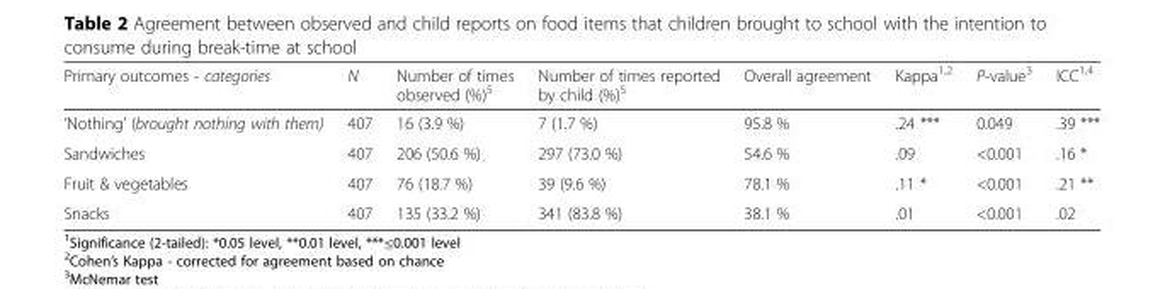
<table><thead><tr><td>Primary outcomes - categories</td><td>N</td><td>Number of times observed (%)<sup>5</sup></td><td>Number of times reported by child (%)<sup>5</sup></td><td>Overall agreement</td><td>Kappa<sup>1,2</sup></td><td>P-value<sup>3</sup></td><td>ICC<sup>1,4</sup></td></tr></thead><tbody><tr><td>‘Nothing’ (brought nothing with them)</td><td>407</td><td>16 (3.9 %)</td><td>7 (1.7 %)</td><td>95.8 %</td><td>.24 ***</td><td>0.049</td><td>.39 ***</td></tr><tr><td>Sandwiches</td><td>407</td><td>206 (50.6 %)</td><td>297 (73.0 %)</td><td>54.6 %</td><td>.09</td><td>&lt;0.001</td><td>.16 *</td></tr><tr><td>Fruit &amp; vegetables</td><td>407</td><td>76 (18.7 %)</td><td>39 (9.6 %)</td><td>78.1 %</td><td>.11 *</td><td>&lt;0.001</td><td>.21 **</td></tr><tr><td>Snacks</td><td>407</td><td>135 (33.2 %)</td><td>341 (83.8 %)</td><td>38.1 %</td><td>.01</td><td>&lt;0.001</td><td>.02</td></tr></tbody></table>